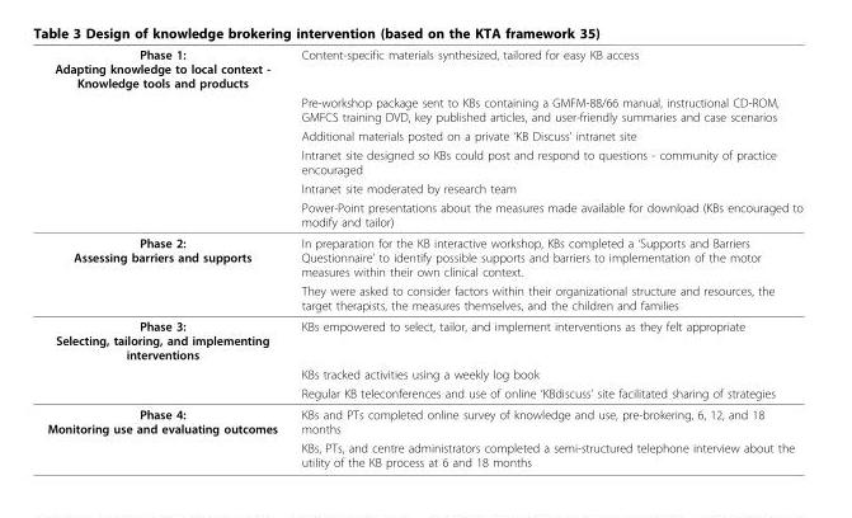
<table><thead><tr><td rowspan="6">Phase 1: Adapting knowledge to local context - Knowledge tools and products</td><td rowspan="6">Content-specific materials synthesized, tailored for easy KB access Pre-workshop package sent to KBs containing a GMFM-88/66 manual, instructional CD-ROM, GMFCS training DVD, key published articles, and user-friendly summaries and case scenarios Additional materials posted on a private ‘KB Discuss’ intranet site Intranet site designed so KBs could post and respond to questions - community of practice encouraged Intranet site moderated by research team Power-Point presentations about the measures made available for download (KBs encouraged to modify and tailor)</td></tr><tr></tr><tr></tr><tr></tr><tr></tr><tr></tr></thead><tbody><tr><td rowspan="2">Phase 2: Assessing barriers and supports</td><td>In preparation for the KB interactive workshop, KBs completed a ‘Supports and Barriers Questionnaire’ to identify possible supports and barriers to implementation of the motor measures within their own clinical context.</td></tr><tr><td>They were asked to consider factors within their organizational structure and resources, the target therapists, the measures themselves, and the children and families</td></tr><tr><td rowspan="3">Phase 3: Selecting, tailoring, and implementing interventions</td><td>KBs empowered to select, tailor, and implement interventions as they felt appropriate</td></tr><tr><td>KBs tracked activities using a weekly log book</td></tr><tr><td>Regular KB teleconferences and use of online ‘KBdiscuss’ site facilitated sharing of strategies</td></tr><tr><td rowspan="2">Phase 4: Monitoring use and evaluating outcomes</td><td>KBs and PTs completed online survey of knowledge and use, pre-brokering, 6, 12, and 18 months</td></tr><tr><td>KBs, PTs, and centre administrators completed a semi-structured telephone interview about the utility of the KB process at 6 and 18 months</td></tr></tbody></table>